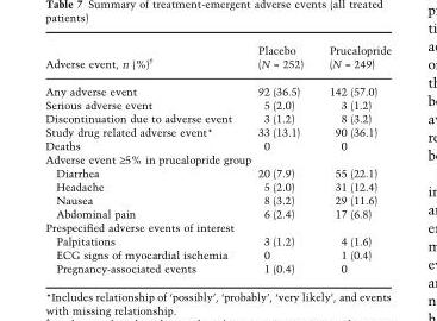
<table><thead><tr><td>Adverse event, n (%)†</td><td>Placebo (N = 252)</td><td>Prucalopride (N = 249)</td></tr></thead><tbody><tr><td>Any adverse event</td><td>92 (36.5)</td><td>142 (57.0)</td></tr><tr><td>Serious adverse event</td><td>5 (2.0)</td><td>3 (1.2)</td></tr><tr><td>Discontinuation due to adverse event</td><td>3 (1.2)</td><td>8 (3.2)</td></tr><tr><td>Study drug related adverse event*</td><td>33 (13.1)</td><td>90 (36.1)</td></tr><tr><td>Deaths</td><td>0</td><td>0</td></tr><tr><td colspan="3">Adverse event ‡5% in prucalopride group</td></tr><tr><td>Diarrhea</td><td>20 (7.9)</td><td>55 (22.1)</td></tr><tr><td>Headache</td><td>5 (2.0)</td><td>31 (12.4)</td></tr><tr><td>Nausea</td><td>8 (3.2)</td><td>29 (11.6)</td></tr><tr><td>Abdominal pain</td><td>6 (2.4)</td><td>17 (6.8)</td></tr><tr><td colspan="3">Prespecified adverse events of interest</td></tr><tr><td>Palpitations</td><td>3 (1.2)</td><td>4 (1.6)</td></tr><tr><td>ECG signs of myocardial ischemia</td><td>0</td><td>1 (0.4)</td></tr><tr><td>Pregnancy-associated events</td><td>1 (0.4)</td><td>0</td></tr></tbody></table>